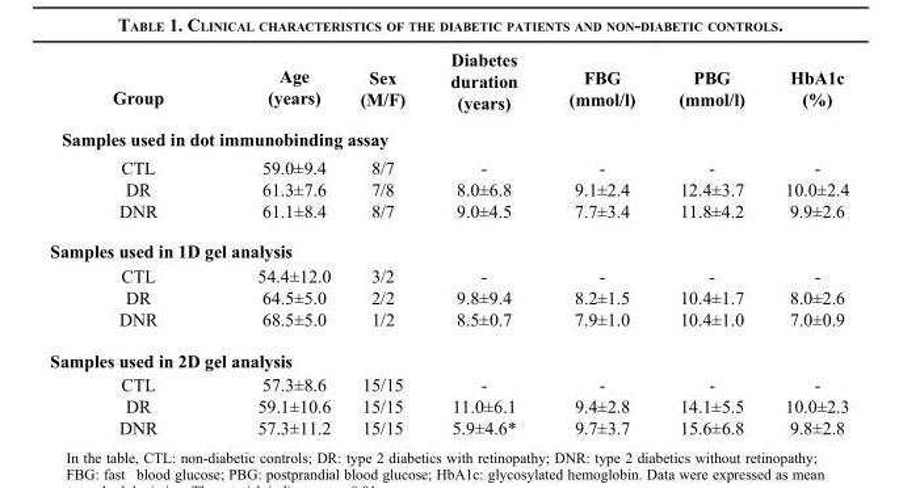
<table><thead><tr><td>Group</td><td>Age (years)</td><td>Sex (M/F)</td><td>Diabetes duration (years)</td><td>FBG (mmol/l)</td><td>PBG (mmol/l)</td><td>HbA1c (%)</td></tr></thead><tbody><tr><td colspan="7">Samples used in dot immunobinding assay</td></tr><tr><td>CTL</td><td>59.0±9.4</td><td>8/7</td><td>-</td><td>-</td><td>-</td><td>-</td></tr><tr><td>DR</td><td>61.3±7.6</td><td>7/8</td><td>8.0±6.8</td><td>9.1±2.4</td><td>12.4±3.7</td><td>10.0±2.4</td></tr><tr><td>DNR</td><td>61.1±8.4</td><td>8/7</td><td>9.0±4.5</td><td>7.7±3.4</td><td>11.8±4.2</td><td>9.9±2.6</td></tr><tr><td colspan="7">Samples used in 1D gel analysis</td></tr><tr><td>CTL</td><td>54.4±12.0</td><td>3/2</td><td>-</td><td>-</td><td>-</td><td>-</td></tr><tr><td>DR</td><td>64.5±5.0</td><td>2/2</td><td>9.8±9.4</td><td>8.2±1.5</td><td>10.4±1.7</td><td>8.0±2.6</td></tr><tr><td>DNR</td><td>68.5±5.0</td><td>1/2</td><td>8.5±0.7</td><td>7.9±1.0</td><td>10.4±1.0</td><td>7.0±0.9</td></tr><tr><td colspan="7">Samples used in 2D gel analysis</td></tr><tr><td>CTL</td><td>57.3±8.6</td><td>15/15</td><td>-</td><td>-</td><td>-</td><td>-</td></tr><tr><td>DR</td><td>59.1±10.6</td><td>15/15</td><td>11.0±6.1</td><td>9.4±2.8</td><td>14.1±5.5</td><td>10.0±2.3</td></tr><tr><td>DNR</td><td>57.3±11.2</td><td>15/15</td><td>5.9±4.6*</td><td>9.7±3.7</td><td>15.6±6.8</td><td>9.8±2.8</td></tr></tbody></table>